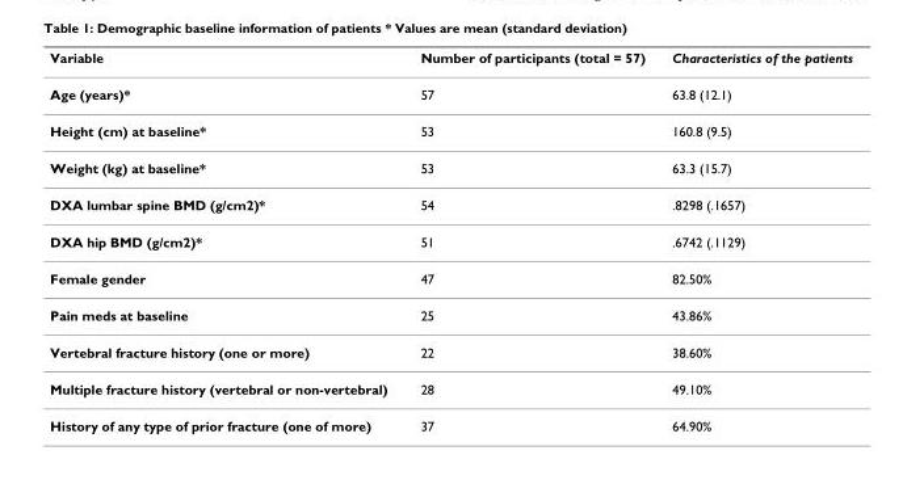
<table><thead><tr><td>Variable</td><td>Number of participants (total = 57)</td><td>Characteristics of the patients</td></tr></thead><tbody><tr><td>Age (years)*</td><td>57</td><td>63.8 (12.1)</td></tr><tr><td>Height (cm) at baseline*</td><td>53</td><td>160.8 (9.5)</td></tr><tr><td>Weight (kg) at baseline*</td><td>53</td><td>63.3 (15.7)</td></tr><tr><td>DXA lumbar spine BMD (g/cm2)*</td><td>54</td><td>.8298 (.1657)</td></tr><tr><td>DXA hip BMD (g/cm2)*</td><td>51</td><td>.6742 (.1129)</td></tr><tr><td>Female gender</td><td>47</td><td>82.50%</td></tr><tr><td>Pain meds at baseline</td><td>25</td><td>43.86%</td></tr><tr><td>Vertebral fracture history (one or more)</td><td>22</td><td>38.60%</td></tr><tr><td>Multiple fracture history (vertebral or non-vertebral)</td><td>28</td><td>49.10%</td></tr><tr><td>History of any type of prior fracture (one of more)</td><td>37</td><td>64.90%</td></tr></tbody></table>